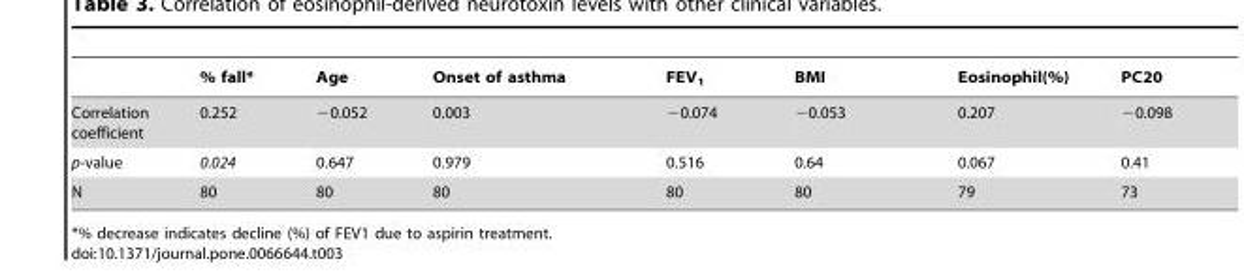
<table><thead><tr><td></td><td>% fall*</td><td>Age</td><td>Onset of asthma</td><td>FEV<sub>1</sub></td><td>BMI</td><td>Eosinophil(%)</td><td>PC20</td></tr></thead><tbody><tr><td>Correlation coefficient</td><td>0.252</td><td>−0.052</td><td>0.003</td><td>−0.074</td><td>−0.053</td><td>0.207</td><td>−0.098</td></tr><tr><td>p-value</td><td>0.024</td><td>0.647</td><td>0.979</td><td>0.516</td><td>0.64</td><td>0.067</td><td>0.41</td></tr><tr><td>N</td><td>80</td><td>80</td><td>80</td><td>80</td><td>80</td><td>79</td><td>73</td></tr></tbody></table>